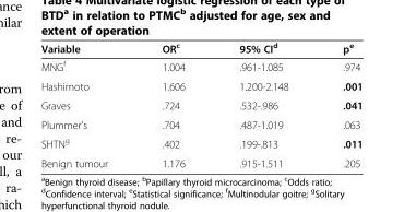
<table><thead><tr><td>Variable</td><td>OR<sup>c</sup></td><td>95% CI<sup>d</sup></td><td>p<sup>e</sup></td></tr></thead><tbody><tr><td>MNG<sup>f</sup></td><td>1.004</td><td>.961-1.085</td><td>.974</td></tr><tr><td>Hashimoto</td><td>1.606</td><td>1.200-2.148</td><td>.001</td></tr><tr><td>Graves</td><td>.724</td><td>.532-.986</td><td>.041</td></tr><tr><td>Plummer&#x27;s</td><td>.704</td><td>.487-1.019</td><td>.063</td></tr><tr><td>SHTN<sup>g</sup></td><td>.402</td><td>.199-.813</td><td>.011</td></tr><tr><td>Benign tumour</td><td>1.176</td><td>.915-1.511</td><td>.205</td></tr></tbody></table>